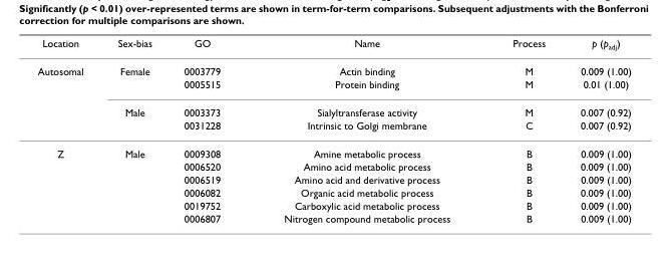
<table><thead><tr><td>Location</td><td>Sex-bias</td><td>GO</td><td>Name</td><td>Process</td><td>p (p<sub>adj</sub>)</td></tr></thead><tbody><tr><td rowspan="4">Autosomal</td><td>Female</td><td>0003779</td><td>Actin binding</td><td>M</td><td>0.009 (1.00)</td></tr><tr><td></td><td>0005515</td><td>Protein binding</td><td>M</td><td>0.01 (1.00)</td></tr><tr><td>Male</td><td>0003373</td><td>Sialyltransferase activity</td><td>M</td><td>0.007 (0.92)</td></tr><tr><td></td><td>0031228</td><td>Intrinsic to Golgi membrane</td><td>C</td><td>0.007 (0.92)</td></tr><tr><td rowspan="6">Z</td><td>Male</td><td>0009308</td><td>Amine metabolic process</td><td>B</td><td>0.009 (1.00)</td></tr><tr><td></td><td>0006520</td><td>Amino acid metabolic process</td><td>B</td><td>0.009 (1.00)</td></tr><tr><td></td><td>0006519</td><td>Amino acid and derivative process</td><td>B</td><td>0.009 (1.00)</td></tr><tr><td></td><td>0006082</td><td>Organic acid metabolic process</td><td>B</td><td>0.009 (1.00)</td></tr><tr><td></td><td>0019752</td><td>Carboxylic acid metabolic process</td><td>B</td><td>0.009 (1.00)</td></tr><tr><td></td><td>0006807</td><td>Nitrogen compound metabolic process</td><td>B</td><td>0.009 (1.00)</td></tr></tbody></table>